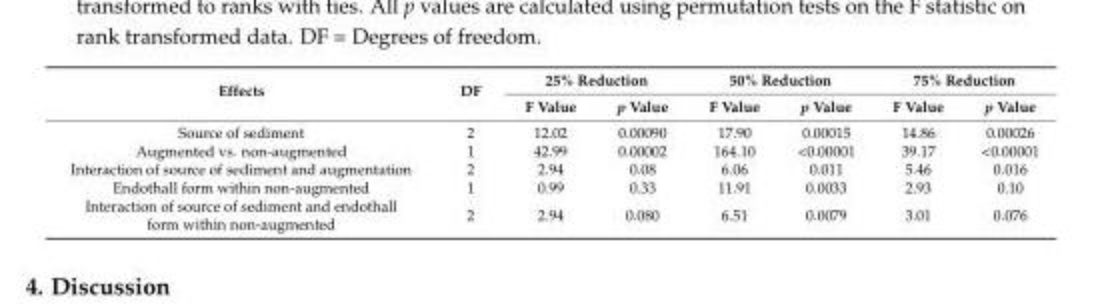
<table><thead><tr><td rowspan="2">Effects</td><td rowspan="2">DF</td><td colspan="2">25% Reduction</td><td colspan="2">50% Reduction</td><td colspan="2">75% Reduction</td></tr><tr><td>F Value</td><td>p Value</td><td>F Value</td><td>p Value</td><td>F Value</td><td>p Value</td></tr></thead><tbody><tr><td>Source of sediment</td><td>2</td><td>12.02</td><td>0.00090</td><td>17.90</td><td>0.00015</td><td>14.86</td><td>0.00026</td></tr><tr><td>Augmented vs. non-augmented</td><td>1</td><td>42.99</td><td>0.00002</td><td>164.10</td><td>&lt;0.00001</td><td>39.17</td><td>&lt;0.00001</td></tr><tr><td>Interaction of source of sediment and augmentation</td><td>2</td><td>2.94</td><td>0.08</td><td>6.06</td><td>0.011</td><td>5.46</td><td>0.016</td></tr><tr><td>Endothall form within non-augmented</td><td>1</td><td>0.99</td><td>0.33</td><td>11.91</td><td>0.0033</td><td>2.93</td><td>0.10</td></tr><tr><td>Interaction of source of sediment and endothall form within non-augmented</td><td>2</td><td>2.94</td><td>0.080</td><td>6.51</td><td>0.0079</td><td>3.01</td><td>0.076</td></tr></tbody></table>